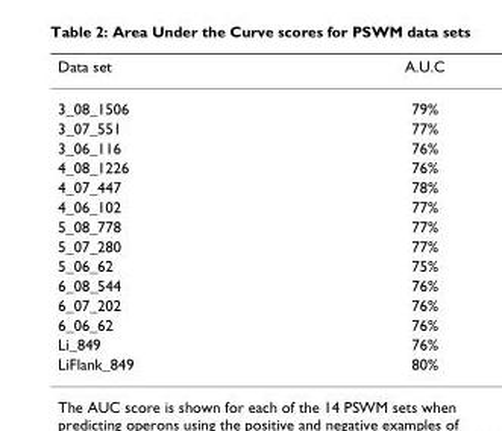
<table><thead><tr><td>Data set</td><td>A.U.C</td></tr></thead><tbody><tr><td>3_08_1506</td><td>79%</td></tr><tr><td>3_07_551</td><td>77%</td></tr><tr><td>3_06_116</td><td>76%</td></tr><tr><td>4_08_1226</td><td>76%</td></tr><tr><td>4_07_447</td><td>78%</td></tr><tr><td>4_06_102</td><td>77%</td></tr><tr><td>5_08_778</td><td>77%</td></tr><tr><td>5_07_280</td><td>77%</td></tr><tr><td>5_06_62</td><td>75%</td></tr><tr><td>6_08_544</td><td>76%</td></tr><tr><td>6_07_202</td><td>76%</td></tr><tr><td>6_06_62</td><td>76%</td></tr><tr><td>Li_849</td><td>76%</td></tr><tr><td>LiFlank_849</td><td>80%</td></tr></tbody></table>